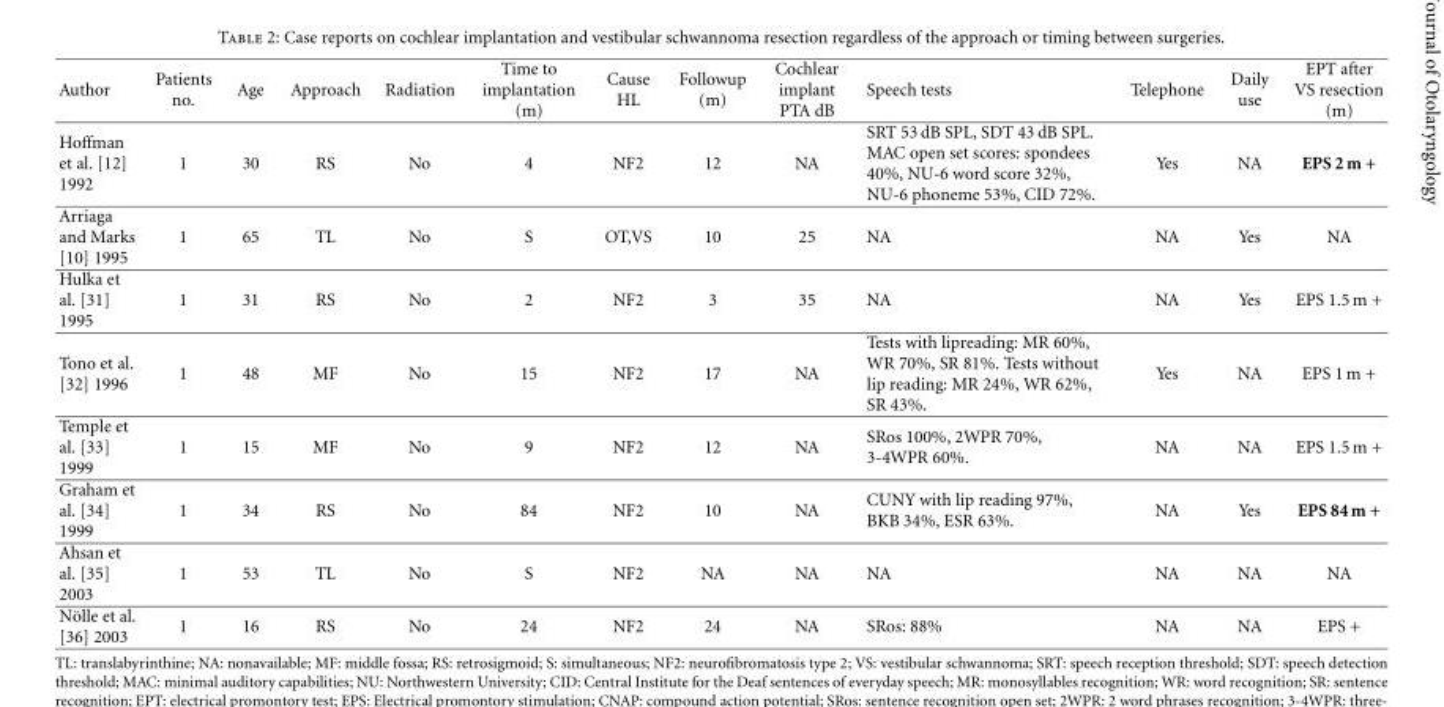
<table><thead><tr><td>Author</td><td>Patients no.</td><td>Age</td><td>Approach</td><td>Radiation</td><td>Time to implantation (m)</td><td>Cause HL</td><td>Followup (m)</td><td>Cochlear implant PTA dB</td><td>Speech tests</td><td>Telephone</td><td>Daily use</td><td>EPT after VS resection (m)</td></tr></thead><tbody><tr><td>Hoffman et al. [12] 1992</td><td>1</td><td>30</td><td>RS</td><td>No</td><td>4</td><td>NF2</td><td>12</td><td>NA</td><td>SRT 53 dB SPL, SDT 43 dB SPL. MAC open set scores: spondees 40%, NU-6 word score 32%, NU-6 phoneme 53%, CID 72%.</td><td>Yes</td><td>NA</td><td>EPS 2 m +</td></tr><tr><td>Arriaga and Marks [10] 1995</td><td>1</td><td>65</td><td>TL</td><td>No</td><td>S</td><td>OT,VS</td><td>10</td><td>25</td><td>NA</td><td>NA</td><td>Yes</td><td>NA</td></tr><tr><td>Hulka et al. [31] 1995</td><td>1</td><td>31</td><td>RS</td><td>No</td><td>2</td><td>NF2</td><td>3</td><td>35</td><td>NA</td><td>NA</td><td>Yes</td><td>EPS 1.5 m +</td></tr><tr><td>Tono et al. [32] 1996</td><td>1</td><td>48</td><td>MF</td><td>No</td><td>15</td><td>NF2</td><td>17</td><td>NA</td><td>Tests with lipreading: MR 60%, WR 70%, SR 81%. Tests without lip reading: MR 24%, WR 62%, SR 43%.</td><td>Yes</td><td>NA</td><td>EPS 1 m +</td></tr><tr><td>Temple et al. [33] 1999</td><td>1</td><td>15</td><td>MF</td><td>No</td><td>9</td><td>NF2</td><td>12</td><td>NA</td><td>SRos 100%, 2WPR 70%, 3-4WPR 60%.</td><td>NA</td><td>NA</td><td>EPS 1.5 m +</td></tr><tr><td>Graham et al. [34] 1999</td><td>1</td><td>34</td><td>RS</td><td>No</td><td>84</td><td>NF2</td><td>10</td><td>NA</td><td>CUNY with lip reading 97%, BKB 34%, ESR 63%.</td><td>NA</td><td>Yes</td><td>EPS 84 m +</td></tr><tr><td>Ahsan et al. [35] 2003</td><td>1</td><td>53</td><td>TL</td><td>No</td><td>S</td><td>NF2</td><td>NA</td><td>NA</td><td>NA</td><td>NA</td><td>NA</td><td>NA</td></tr><tr><td>N¨olle et al. [36] 2003</td><td>1</td><td>16</td><td>RS</td><td>No</td><td>24</td><td>NF2</td><td>24</td><td>NA</td><td>SRos: 88%</td><td>NA</td><td>NA</td><td>EPS +</td></tr></tbody></table>